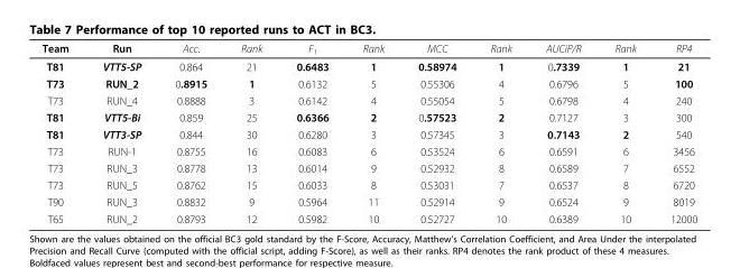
<table><thead><tr><td>Team</td><td>Run</td><td>Acc.</td><td>Rank</td><td>F<sub>1</sub></td><td>Rank</td><td>MCC</td><td>Rank</td><td>AUCiP/R</td><td>Rank</td><td>RP4</td></tr></thead><tbody><tr><td>T81</td><td>VTT5-SP</td><td>0.864</td><td>21</td><td>0.6483</td><td>1</td><td>0.58974</td><td>1</td><td>0.7339</td><td>1</td><td>21</td></tr><tr><td>T73</td><td>RUN_2</td><td>0.8915</td><td>1</td><td>0.6132</td><td>5</td><td>0.55306</td><td>4</td><td>0.6796</td><td>5</td><td>100</td></tr><tr><td>T73</td><td>RUN_4</td><td>0.8888</td><td>3</td><td>0.6142</td><td>4</td><td>0.55054</td><td>5</td><td>0.6798</td><td>4</td><td>240</td></tr><tr><td>T81</td><td>VTT5-Bi</td><td>0.859</td><td>25</td><td>0.6366</td><td>2</td><td>0.57523</td><td>2</td><td>0.7127</td><td>3</td><td>300</td></tr><tr><td>T81</td><td>VTT3-SP</td><td>0.844</td><td>30</td><td>0.6280</td><td>3</td><td>0.57345</td><td>3</td><td>0.7143</td><td>2</td><td>540</td></tr><tr><td>T73</td><td>RUN-1</td><td>0.8755</td><td>16</td><td>0.6083</td><td>6</td><td>0.53524</td><td>6</td><td>0.6591</td><td>6</td><td>3456</td></tr><tr><td>T73</td><td>RUN_3</td><td>0.8778</td><td>13</td><td>0.6014</td><td>9</td><td>0.52932</td><td>8</td><td>0.6589</td><td>7</td><td>6552</td></tr><tr><td>T73</td><td>RUN_5</td><td>0.8762</td><td>15</td><td>0.6033</td><td>8</td><td>0.53031</td><td>7</td><td>0.6537</td><td>8</td><td>6720</td></tr><tr><td>T90</td><td>RUN_3</td><td>0.8832</td><td>9</td><td>0.5964</td><td>11</td><td>0.52914</td><td>9</td><td>0.6524</td><td>9</td><td>8019</td></tr><tr><td>T65</td><td>RUN_2</td><td>0.8793</td><td>12</td><td>0.5982</td><td>10</td><td>0.52727</td><td>10</td><td>0.6389</td><td>10</td><td>12000</td></tr></tbody></table>